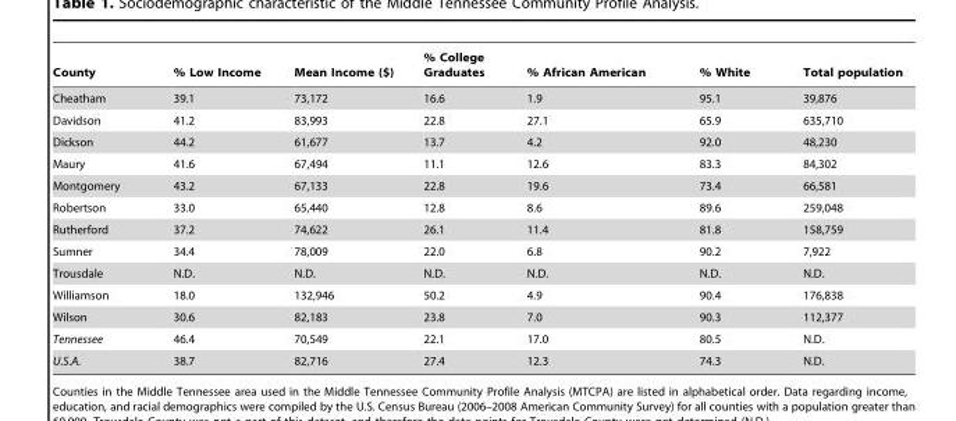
<table><thead><tr><td>County</td><td>% Low Income</td><td>Mean Income ($)</td><td>% College Graduates</td><td>% African American</td><td>% White</td><td>Total population</td></tr></thead><tbody><tr><td>Cheatham</td><td>39.1</td><td>73,172</td><td>16.6</td><td>1.9</td><td>95.1</td><td>39,876</td></tr><tr><td>Davidson</td><td>41.2</td><td>83,993</td><td>22.8</td><td>27.1</td><td>65.9</td><td>635,710</td></tr><tr><td>Dickson</td><td>44.2</td><td>61,677</td><td>13.7</td><td>4.2</td><td>92.0</td><td>48,230</td></tr><tr><td>Maury</td><td>41.6</td><td>67,494</td><td>11.1</td><td>12.6</td><td>83.3</td><td>84,302</td></tr><tr><td>Montgomery</td><td>43.2</td><td>67,133</td><td>22.8</td><td>19.6</td><td>73.4</td><td>66,581</td></tr><tr><td>Robertson</td><td>33.0</td><td>65,440</td><td>12.8</td><td>8.6</td><td>89.6</td><td>259,048</td></tr><tr><td>Rutherford</td><td>37.2</td><td>74,622</td><td>26.1</td><td>11.4</td><td>81.8</td><td>158,759</td></tr><tr><td>Sumner</td><td>34.4</td><td>78,009</td><td>22.0</td><td>6.8</td><td>90.2</td><td>7,922</td></tr><tr><td>Trousdale</td><td>N.D.</td><td>N.D.</td><td>N.D.</td><td>N.D.</td><td>N.D.</td><td>N.D.</td></tr><tr><td>Williamson</td><td>18.0</td><td>132,946</td><td>50.2</td><td>4.9</td><td>90.4</td><td>176,838</td></tr><tr><td>Wilson</td><td>30.6</td><td>82,183</td><td>23.8</td><td>7.0</td><td>90.3</td><td>112,377</td></tr><tr><td>Tennessee</td><td>46.4</td><td>70,549</td><td>22.1</td><td>17.0</td><td>80.5</td><td>N.D.</td></tr><tr><td>U.S.A.</td><td>38.7</td><td>82,716</td><td>27.4</td><td>12.3</td><td>74.3</td><td>N.D.</td></tr></tbody></table>